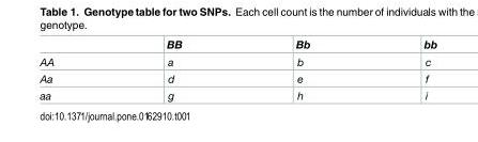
<table><thead><tr><td></td><td>BB</td><td>Bb</td><td>bb</td></tr></thead><tbody><tr><td>AA</td><td>a</td><td>b</td><td>c</td></tr><tr><td>Aa</td><td>d</td><td>e</td><td>f</td></tr><tr><td>aa</td><td>g</td><td>h</td><td>i</td></tr></tbody></table>